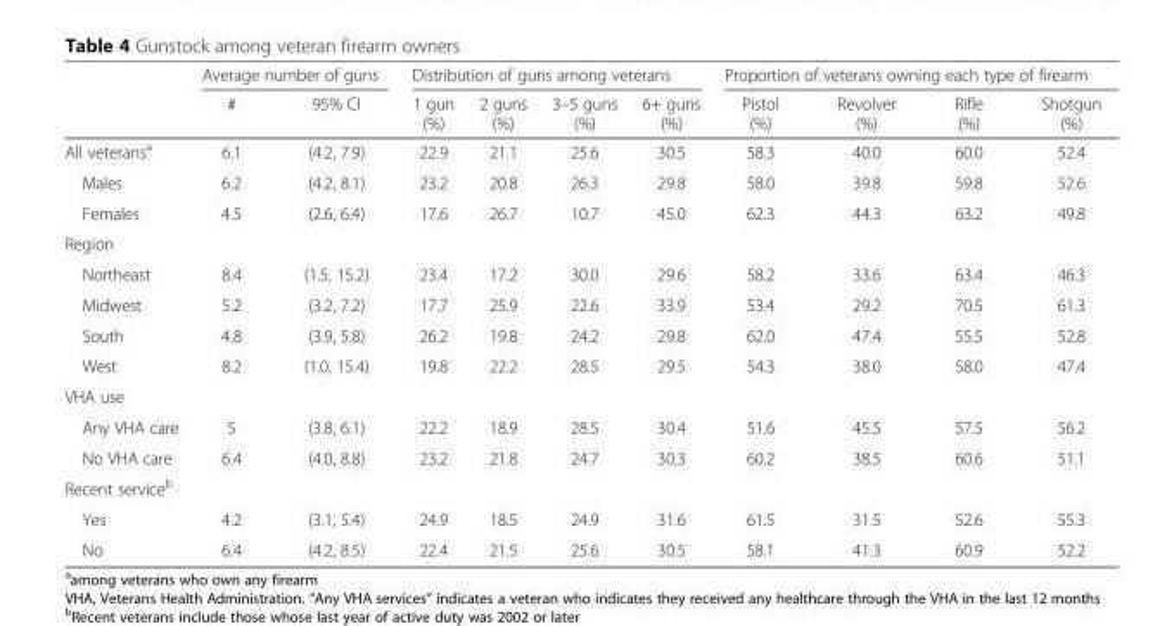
<table><thead><tr><td rowspan="2"></td><td colspan="2">Average number of guns</td><td colspan="4">Distribution of guns among veterans</td><td colspan="4">Proportion of veterans owning each type of firearm</td></tr><tr><td>#</td><td>95% CI</td><td>1 gun (%)</td><td>2 guns (%)</td><td>3–5 guns (%)</td><td>6+ guns (%)</td><td>Pistol (%)</td><td>Revolver (%)</td><td>Rifle (%)</td><td>Shotgun (%)</td></tr></thead><tbody><tr><td>All veterans<sup>a</sup></td><td>6.1</td><td>(4.2, 7.9)</td><td>22.9</td><td>21.1</td><td>25.6</td><td>30.5</td><td>58.3</td><td>40.0</td><td>60.0</td><td>52.4</td></tr><tr><td>Males</td><td>6.2</td><td>(4.2, 8.1)</td><td>23.2</td><td>20.8</td><td>26.3</td><td>29.8</td><td>58.0</td><td>39.8</td><td>59.8</td><td>52.6</td></tr><tr><td>Females</td><td>4.5</td><td>(2.6, 6.4)</td><td>17.6</td><td>26.7</td><td>10.7</td><td>45.0</td><td>62.3</td><td>44.3</td><td>63.2</td><td>49.8</td></tr><tr><td colspan="11">Region</td></tr><tr><td>Northeast</td><td>8.4</td><td>(1.5, 15.2)</td><td>23.4</td><td>17.2</td><td>30.0</td><td>29.6</td><td>58.2</td><td>33.6</td><td>63.4</td><td>46.3</td></tr><tr><td>Midwest</td><td>5.2</td><td>(3.2, 7.2)</td><td>17.7</td><td>25.9</td><td>22.6</td><td>33.9</td><td>53.4</td><td>29.2</td><td>70.5</td><td>61.3</td></tr><tr><td>South</td><td>4.8</td><td>(3.9, 5.8)</td><td>26.2</td><td>19.8</td><td>24.2</td><td>29.8</td><td>62.0</td><td>47.4</td><td>55.5</td><td>52.8</td></tr><tr><td>West</td><td>8.2</td><td>(1.0, 15.4)</td><td>19.8</td><td>22.2</td><td>28.5</td><td>29.5</td><td>54.3</td><td>38.0</td><td>58.0</td><td>47.4</td></tr><tr><td colspan="11">VHA use</td></tr><tr><td>Any VHA care</td><td>5</td><td>(3.8, 6.1)</td><td>22.2</td><td>18.9</td><td>28.5</td><td>30.4</td><td>51.6</td><td>45.5</td><td>57.5</td><td>56.2</td></tr><tr><td>No VHA care</td><td>6.4</td><td>(4.0, 8.8)</td><td>23.2</td><td>21.8</td><td>24.7</td><td>30.3</td><td>60.2</td><td>38.5</td><td>60.6</td><td>51.1</td></tr><tr><td colspan="11">Recent service<sup>b</sup></td></tr><tr><td>Yes</td><td>4.2</td><td>(3.1, 5.4)</td><td>24.9</td><td>18.5</td><td>24.9</td><td>31.6</td><td>61.5</td><td>31.5</td><td>52.6</td><td>55.3</td></tr><tr><td>No</td><td>6.4</td><td>(4.2, 8.5)</td><td>22.4</td><td>21.5</td><td>25.6</td><td>30.5</td><td>58.1</td><td>41.3</td><td>60.9</td><td>52.2</td></tr></tbody></table>